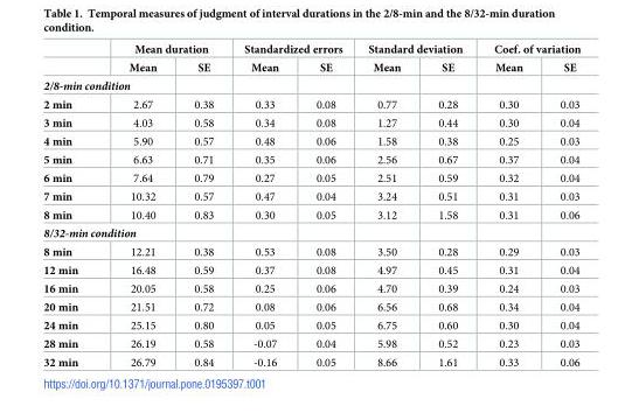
<table><thead><tr><td rowspan="2"></td><td colspan="2">Mean duration</td><td colspan="2">Standardized errors</td><td colspan="2">Standard deviation</td><td colspan="2">Coef. of variation</td></tr><tr><td>Mean</td><td>SE</td><td>Mean</td><td>SE</td><td>Mean</td><td>SE</td><td>Mean</td><td>SE</td></tr></thead><tbody><tr><td colspan="9">2/8-min condition</td></tr><tr><td>2 min</td><td>2.67</td><td>0.38</td><td>0.33</td><td>0.08</td><td>0.77</td><td>0.28</td><td>0.30</td><td>0.03</td></tr><tr><td>3 min</td><td>4.03</td><td>0.58</td><td>0.34</td><td>0.08</td><td>1.27</td><td>0.44</td><td>0.30</td><td>0.04</td></tr><tr><td>4 min</td><td>5.90</td><td>0.57</td><td>0.48</td><td>0.06</td><td>1.58</td><td>0.38</td><td>0.25</td><td>0.03</td></tr><tr><td>5 min</td><td>6.63</td><td>0.71</td><td>0.35</td><td>0.06</td><td>2.56</td><td>0.67</td><td>0.37</td><td>0.04</td></tr><tr><td>6 min</td><td>7.64</td><td>0.79</td><td>0.27</td><td>0.05</td><td>2.51</td><td>0.59</td><td>0.32</td><td>0.04</td></tr><tr><td>7 min</td><td>10.32</td><td>0.57</td><td>0.47</td><td>0.04</td><td>3.24</td><td>0.51</td><td>0.31</td><td>0.03</td></tr><tr><td>8 min</td><td>10.40</td><td>0.83</td><td>0.30</td><td>0.05</td><td>3.12</td><td>1.58</td><td>0.31</td><td>0.06</td></tr><tr><td colspan="9">8/32-min condition</td></tr><tr><td>8 min</td><td>12.21</td><td>0.38</td><td>0.53</td><td>0.08</td><td>3.50</td><td>0.28</td><td>0.29</td><td>0.03</td></tr><tr><td>12 min</td><td>16.48</td><td>0.59</td><td>0.37</td><td>0.08</td><td>4.97</td><td>0.45</td><td>0.31</td><td>0.04</td></tr><tr><td>16 min</td><td>20.05</td><td>0.58</td><td>0.25</td><td>0.06</td><td>4.70</td><td>0.39</td><td>0.24</td><td>0.03</td></tr><tr><td>20 min</td><td>21.51</td><td>0.72</td><td>0.08</td><td>0.06</td><td>6.56</td><td>0.68</td><td>0.34</td><td>0.04</td></tr><tr><td>24 min</td><td>25.15</td><td>0.80</td><td>0.05</td><td>0.05</td><td>6.75</td><td>0.60</td><td>0.30</td><td>0.04</td></tr><tr><td>28 min</td><td>26.19</td><td>0.58</td><td>-0.07</td><td>0.04</td><td>5.98</td><td>0.52</td><td>0.23</td><td>0.03</td></tr><tr><td>32 min</td><td>26.79</td><td>0.84</td><td>-0.16</td><td>0.05</td><td>8.66</td><td>1.61</td><td>0.33</td><td>0.06</td></tr></tbody></table>